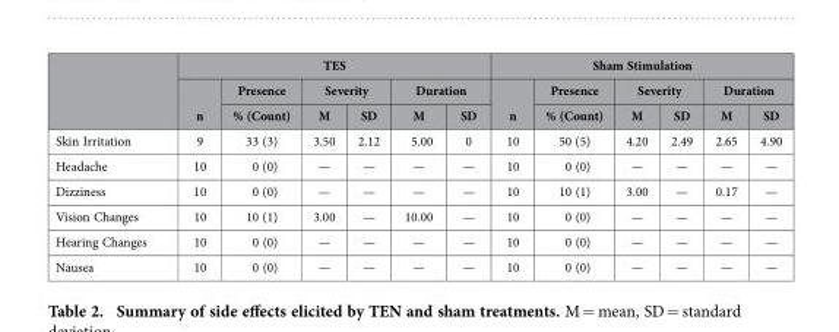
<table><thead><tr><td rowspan="3"></td><td colspan="6">TES</td><td colspan="6">Sham Stimulation</td></tr><tr><td rowspan="2">n</td><td rowspan="2">Presence % (Count)</td><td colspan="2">Severity</td><td colspan="2">Duration</td><td rowspan="2">n</td><td rowspan="2">Presence % (Count)</td><td colspan="2">Severity</td><td colspan="2">Duration</td></tr><tr><td>M</td><td>SD</td><td>M</td><td>SD</td><td>M</td><td>SD</td><td>M</td><td>SD</td></tr></thead><tbody><tr><td>Skin Irritation</td><td>9</td><td>33 (3)</td><td>3.50</td><td>2.12</td><td>5.00</td><td>0</td><td>10</td><td>50 (5)</td><td>4.20</td><td>2.49</td><td>2.65</td><td>4.90</td></tr><tr><td>Headache</td><td>10</td><td>0 (0)</td><td>—</td><td>—</td><td>—</td><td>—</td><td>10</td><td>0 (0)</td><td>—</td><td>—</td><td>—</td><td>—</td></tr><tr><td>Dizziness</td><td>10</td><td>0 (0)</td><td>—</td><td>—</td><td>—</td><td>—</td><td>10</td><td>10 (1)</td><td>3.00</td><td>—</td><td>0.17</td><td>—</td></tr><tr><td>Vision Changes</td><td>10</td><td>10 (1)</td><td>3.00</td><td>—</td><td>10.00</td><td>—</td><td>10</td><td>0 (0)</td><td>—</td><td>—</td><td>—</td><td>—</td></tr><tr><td>Hearing Changes</td><td>10</td><td>0 (0)</td><td>—</td><td>—</td><td>—</td><td>—</td><td>10</td><td>0 (0)</td><td>—</td><td>—</td><td>—</td><td>—</td></tr><tr><td>Nausea</td><td>10</td><td>0 (0)</td><td>—</td><td>—</td><td>—</td><td>—</td><td>10</td><td>0 (0)</td><td>—</td><td>—</td><td>—</td><td>—</td></tr></tbody></table>